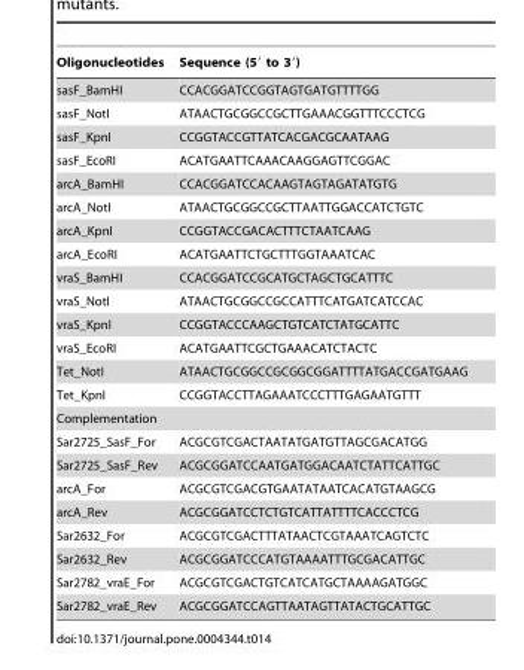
<table><thead><tr><td>Oligonucleotides</td><td>Sequence (5′ to 3′)</td></tr></thead><tbody><tr><td>sasF_BamHI</td><td>CCACGGATCCGGTAGTGATGTTTTGG</td></tr><tr><td>sasF_NotI</td><td>ATAACTGCGGCCGCTTGAAACGGTTTCCCTCG</td></tr><tr><td>sasF_KpnI</td><td>CCGGTACCGTTATCACGACGCAATAAG</td></tr><tr><td>sasF_EcoRI</td><td>ACATGAATTCAAACAAGGAGTTCGGAC</td></tr><tr><td>arcA_BamHI</td><td>CCACGGATCCACAAGTAGTAGATATGTG</td></tr><tr><td>arcA_NotI</td><td>ATAACTGCGGCCGCTTAATTGGACCATCTGTC</td></tr><tr><td>arcA_KpnI</td><td>CCGGTACCGACACTTTCTAATCAAG</td></tr><tr><td>arcA_EcoRI</td><td>ACATGAATTCTGCTTTGGTAAATCAC</td></tr><tr><td>vraS_BamHI</td><td>CCACGGATCCGCATGCTAGCTGCATTTC</td></tr><tr><td>vraS_NotI</td><td>ATAACTGCGGCCGCCATTTCATGATCATCCAC</td></tr><tr><td>vraS_KpnI</td><td>CCGGTACCCAAGCTGTCATCTATGCATTC</td></tr><tr><td>vraS_EcoRI</td><td>ACATGAATTCGCTGAAACATCTACTC</td></tr><tr><td>Tet_NotI</td><td>ATAACTGCGGCCGCGGCGGATTTTATGACCGATGAAG</td></tr><tr><td>Tet_KpnI</td><td>CCGGTACCTTAGAAATCCCTTTGAGAATGTTT</td></tr><tr><td colspan="2">Complementation</td></tr><tr><td>Sar2725_SasF_For</td><td>ACGCGTCGACTAATATGATGTTAGCGACATGG</td></tr><tr><td>Sar2725_SasF_Rev</td><td>ACGCGGATCCAATGATGGACAATCTATTCATTGC</td></tr><tr><td>arcA_For</td><td>ACGCGTCGACGTGAATATAATCACATGTAAGCG</td></tr><tr><td>arcA_Rev</td><td>ACGCGGATCCTCTGTCATTATTTTCACCCTCG</td></tr><tr><td>Sar2632_For</td><td>ACGCGTCGACTTTATAACTCGTAAATCAGTCTC</td></tr><tr><td>Sar2632_Rev</td><td>ACGCGGATCCCATGTAAAATTTGCGACATTGC</td></tr><tr><td>Sar2782_vraE_For</td><td>ACGCGTCGACTGTCATCATGCTAAAAGATGGC</td></tr><tr><td>Sar2782_vraE_Rev</td><td>ACGCGGATCCAGTTAATAGTTATACTGCATTGC</td></tr></tbody></table>